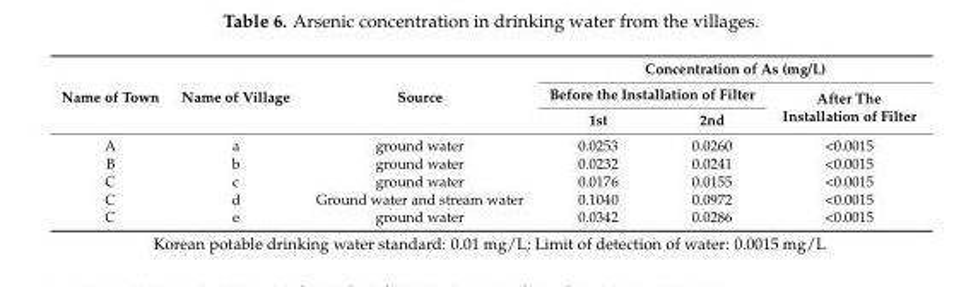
<table><thead><tr><td rowspan="3">Name of Town</td><td rowspan="3">Name of Village</td><td rowspan="3">Source</td><td colspan="3">Concentration of As (mg/L)</td></tr><tr><td colspan="2">Before the Installation of Filter</td><td rowspan="2">After The Installation of Filter</td></tr><tr><td>1st</td><td>2nd</td></tr></thead><tbody><tr><td>A</td><td>a</td><td>ground water</td><td>0.0253</td><td>0.0260</td><td>&lt;0.0015</td></tr><tr><td>B</td><td>b</td><td>ground water</td><td>0.0232</td><td>0.0241</td><td>&lt;0.0015</td></tr><tr><td>C</td><td>c</td><td>ground water</td><td>0.0176</td><td>0.0155</td><td>&lt;0.0015</td></tr><tr><td>C</td><td>d</td><td>Ground water and stream water</td><td>0.1040</td><td>0.0972</td><td>&lt;0.0015</td></tr><tr><td>C</td><td>e</td><td>ground water</td><td>0.0342</td><td>0.0286</td><td>&lt;0.0015</td></tr></tbody></table>